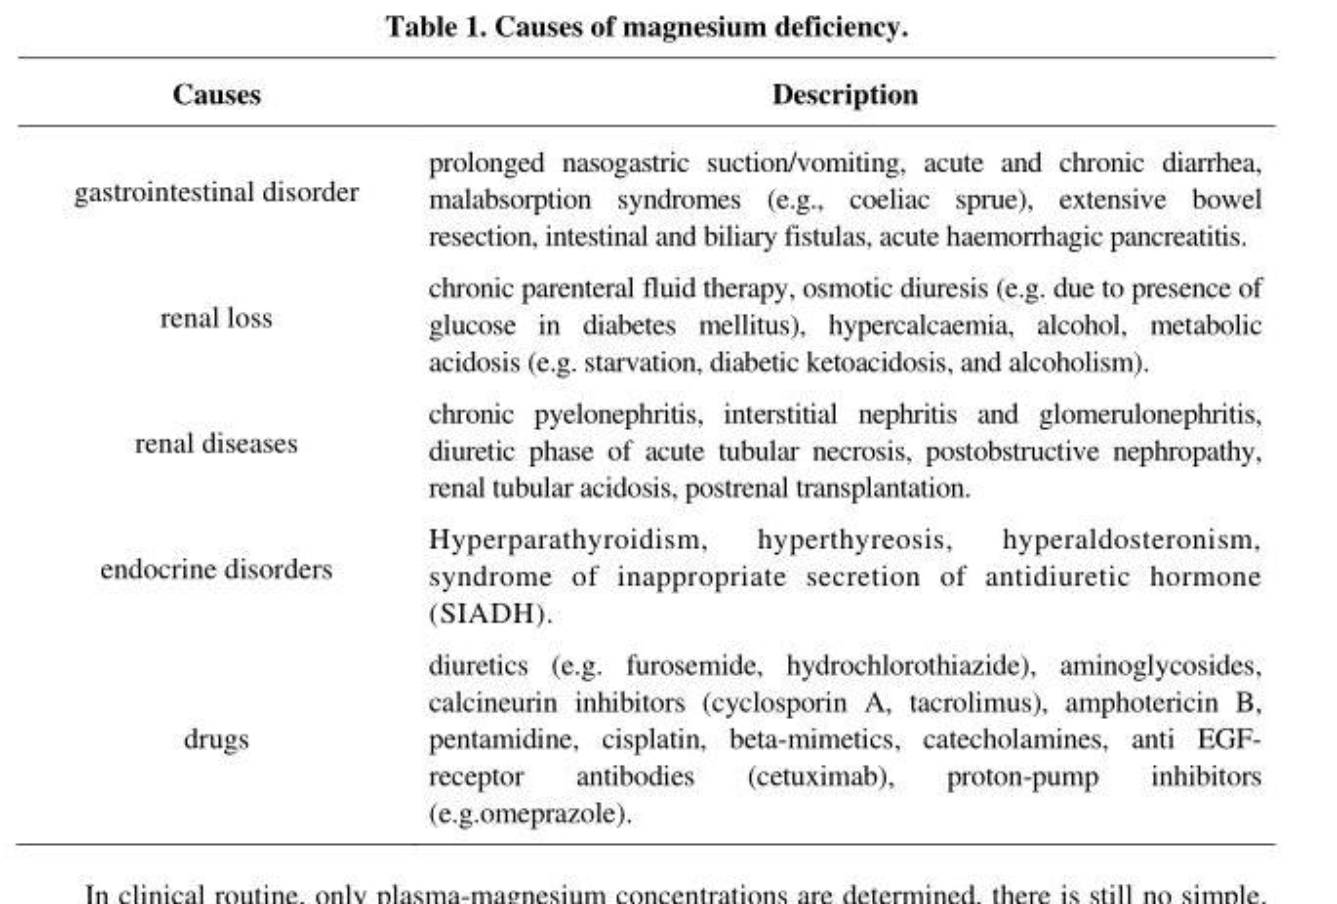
<table><thead><tr><td>Causes</td><td>Description</td></tr></thead><tbody><tr><td>gastrointestinal disorder</td><td>prolonged nasogastric suction/vomiting, acute and chronic diarrhea, malabsorption syndromes (e.g., coeliac sprue), extensive bowel resection, intestinal and biliary fistulas, acute haemorrhagic pancreatitis.</td></tr><tr><td>renal loss</td><td>chronic parenteral fluid therapy, osmotic diuresis (e.g. due to presence of glucose in diabetes mellitus), hypercalcaemia, alcohol, metabolic acidosis (e.g. starvation, diabetic ketoacidosis, and alcoholism).</td></tr><tr><td>renal diseases</td><td>chronic pyelonephritis, interstitial nephritis and glomerulonephritis, diuretic phase of acute tubular necrosis, postobstructive nephropathy, renal tubular acidosis, postrenal transplantation.</td></tr><tr><td>endocrine disorders</td><td>Hyperparathyroidism, hyperthyreosis, hyperaldosteronism, syndrome of inappropriate secretion of antidiuretic hormone (SIADH).</td></tr><tr><td>drugs</td><td>diuretics (e.g. furosemide, hydrochlorothiazide), aminoglycosides, calcineurin inhibitors (cyclosporin A, tacrolimus), amphotericin B, pentamidine, cisplatin, beta-mimetics, catecholamines, anti EGF- receptor antibodies (cetuximab), proton-pump inhibitors (e.g.omeprazole).</td></tr></tbody></table>